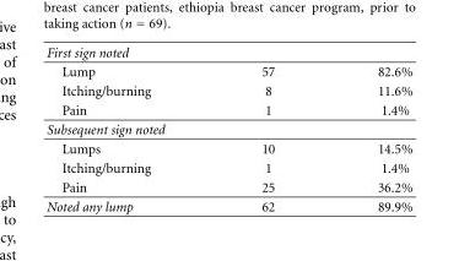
<table><tbody><tr><td colspan="3">First sign noted</td></tr><tr><td>Lump</td><td>57</td><td>82.6%</td></tr><tr><td>Itching/burning</td><td>8</td><td>11.6%</td></tr><tr><td>Pain</td><td>1</td><td>1.4%</td></tr><tr><td colspan="3">Subsequent sign noted</td></tr><tr><td>Lumps</td><td>10</td><td>14.5%</td></tr><tr><td>Itching/burning</td><td>1</td><td>1.4%</td></tr><tr><td>Pain</td><td>25</td><td>36.2%</td></tr><tr><td>Noted any lump</td><td>62</td><td>89.9%</td></tr></tbody></table>